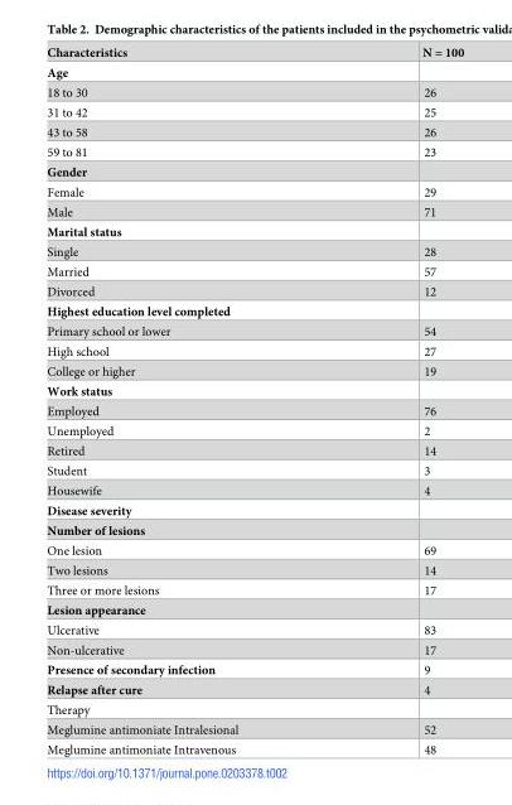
<table><thead><tr><td>Characteristics</td><td>N = 100</td></tr></thead><tbody><tr><td colspan="2">Age</td></tr><tr><td>18 to 30</td><td>26</td></tr><tr><td>31 to 42</td><td>25</td></tr><tr><td>43 to 58</td><td>26</td></tr><tr><td>59 to 81</td><td>23</td></tr><tr><td colspan="2">Gender</td></tr><tr><td>Female</td><td>29</td></tr><tr><td>Male</td><td>71</td></tr><tr><td colspan="2">Marital status</td></tr><tr><td>Single</td><td>28</td></tr><tr><td>Married</td><td>57</td></tr><tr><td>Divorced</td><td>12</td></tr><tr><td colspan="2">Highest education level completed</td></tr><tr><td>Primary school or lower</td><td>54</td></tr><tr><td>High school</td><td>27</td></tr><tr><td>College or higher</td><td>19</td></tr><tr><td colspan="2">Work status</td></tr><tr><td>Employed</td><td>76</td></tr><tr><td>Unemployed</td><td>2</td></tr><tr><td>Retired</td><td>14</td></tr><tr><td>Student</td><td>3</td></tr><tr><td>Housewife</td><td>4</td></tr><tr><td colspan="2">Disease severity</td></tr><tr><td colspan="2">Number of lesions</td></tr><tr><td>One lesion</td><td>69</td></tr><tr><td>Two lesions</td><td>14</td></tr><tr><td>Three or more lesions</td><td>17</td></tr><tr><td colspan="2">Lesion appearance</td></tr><tr><td>Ulcerative</td><td>83</td></tr><tr><td>Non-ulcerative</td><td>17</td></tr><tr><td>Presence of secondary infection</td><td>9</td></tr><tr><td>Relapse after cure</td><td>4</td></tr><tr><td colspan="2">Therapy</td></tr><tr><td>Meglumine antimoniate Intralesional</td><td>52</td></tr><tr><td>Meglumine antimoniate Intravenous</td><td>48</td></tr></tbody></table>